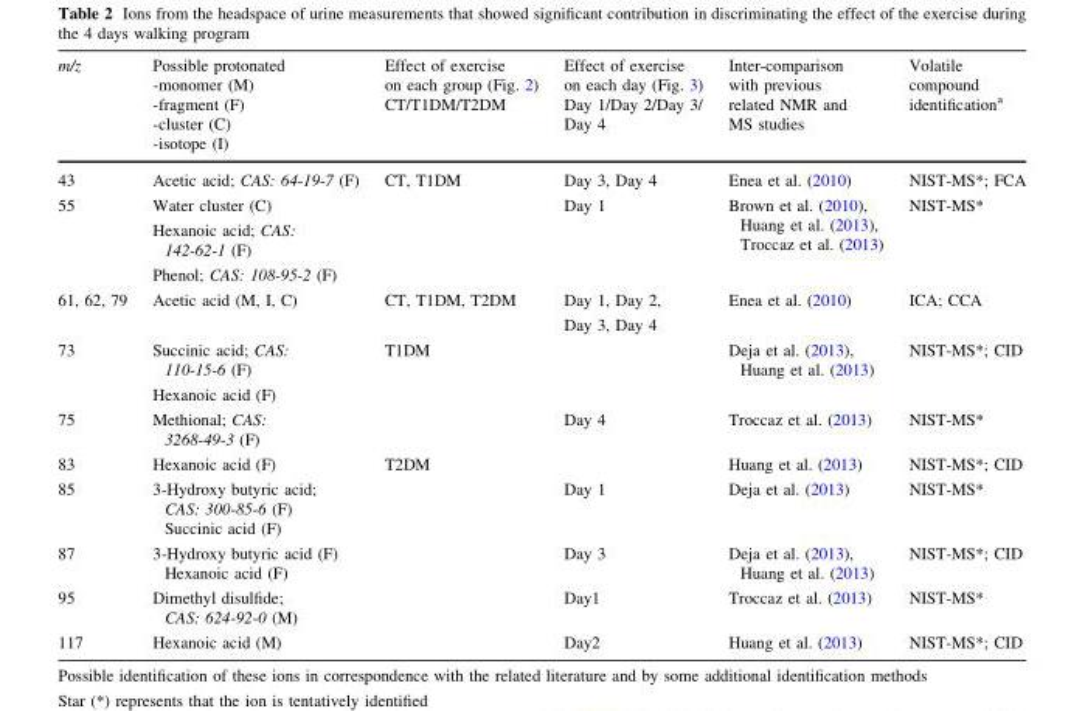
<table><thead><tr><td>m/z</td><td>Possible protonated -monomer (M) -fragment (F) -cluster (C) -isotope (I)</td><td>Effect of exercise on each group (Fig. 2) CT/T1DM/T2DM</td><td>Effect of exercise on each day (Fig. 3) Day 1/Day 2/Day 3/ Day 4</td><td>Inter-comparison with previous related NMR and MS studies</td><td>Volatile compound identification<sup>a</sup></td></tr></thead><tbody><tr><td>43</td><td>Acetic acid; CAS: 64-19-7 (F)</td><td>CT, T1DM</td><td>Day 3, Day 4</td><td>Enea et al. (2010)</td><td>NIST-MS*; FCA</td></tr><tr><td>55</td><td>Water cluster (C) Hexanoic acid; CAS: 142-62-1 (F) Phenol; CAS: 108-95-2 (F)</td><td></td><td>Day 1</td><td>Brown et al. (2010), Huang et al. (2013), Troccaz et al. (2013)</td><td>NIST-MS*</td></tr><tr><td>61, 62, 79</td><td>Acetic acid (M, I, C)</td><td>CT, T1DM, T2DM</td><td>Day 1, Day 2, Day 3, Day 4</td><td>Enea et al. (2010)</td><td>ICA; CCA</td></tr><tr><td>73</td><td>Succinic acid; CAS: 110-15-6 (F) Hexanoic acid (F)</td><td>T1DM</td><td></td><td>Deja et al. (2013), Huang et al. (2013)</td><td>NIST-MS*; CID</td></tr><tr><td>75</td><td>Methional; CAS: 3268-49-3 (F)</td><td></td><td>Day 4</td><td>Troccaz et al. (2013)</td><td>NIST-MS*</td></tr><tr><td>83</td><td>Hexanoic acid (F)</td><td>T2DM</td><td></td><td>Huang et al. (2013)</td><td>NIST-MS*; CID</td></tr><tr><td>85</td><td>3-Hydroxy butyric acid; CAS: 300-85-6 (F) Succinic acid (F)</td><td></td><td>Day 1</td><td>Deja et al. (2013)</td><td>NIST-MS*</td></tr><tr><td>87</td><td>3-Hydroxy butyric acid (F) Hexanoic acid (F)</td><td></td><td>Day 3</td><td>Deja et al. (2013), Huang et al. (2013)</td><td>NIST-MS*; CID</td></tr><tr><td>95</td><td>Dimethyl disulfide; CAS: 624-92-0 (M)</td><td></td><td>Day1</td><td>Troccaz et al. (2013)</td><td>NIST-MS*</td></tr><tr><td>117</td><td>Hexanoic acid (M)</td><td></td><td>Day2</td><td>Huang et al. (2013)</td><td>NIST-MS*; CID</td></tr></tbody></table>